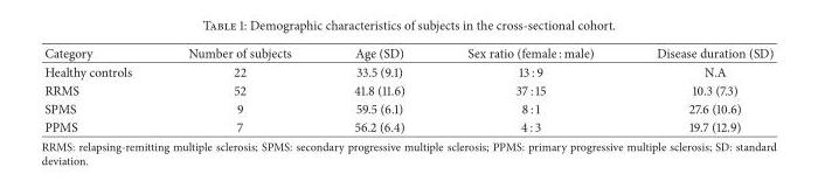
<table><thead><tr><td>Category</td><td>Number of subjects</td><td>Age (SD)</td><td>Sex ratio (female : male)</td><td>Disease duration (SD)</td></tr></thead><tbody><tr><td>Healthy controls</td><td>22</td><td>33.5 (9.1)</td><td>13 : 9</td><td>N.A</td></tr><tr><td>RRMS</td><td>52</td><td>41.8 (11.6)</td><td>37 : 15</td><td>10.3 (7.3)</td></tr><tr><td>SPMS</td><td>9</td><td>59.5 (6.1)</td><td>8 : 1</td><td>27.6 (10.6)</td></tr><tr><td>PPMS</td><td>7</td><td>56.2 (6.4)</td><td>4 : 3</td><td>19.7 (12.9)</td></tr></tbody></table>